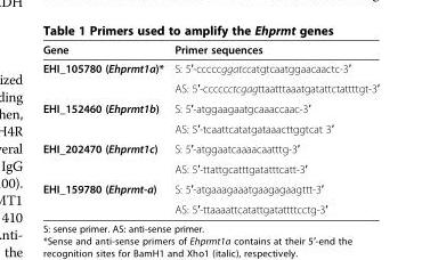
<table><thead><tr><td>Gene</td><td>Primer sequences</td></tr></thead><tbody><tr><td rowspan="2">EHI_105780 (Ehprmt1a)*</td><td>S: 5′-cccccggatccatgtcaatggaacaactc-3′</td></tr><tr><td>AS: 5′-cccccctcgagttaatttaaatgatattctattttgt-3′</td></tr><tr><td rowspan="2">EHI_152460 (Ehprmt1b)</td><td>S: 5′-atggaagaatgcaaaccaac-3′</td></tr><tr><td>AS: 5′-tcaattcatatgataaacttggtcat 3′</td></tr><tr><td rowspan="2">EHI_202470 (Ehprmt1c)</td><td>S: 5′-atggaatcaaaacaatttg-3′</td></tr><tr><td>AS: 5′-ttattgcatttgatatttcatt-3′</td></tr><tr><td rowspan="2">EHI_159780 (Ehprmt-a)</td><td>S: 5′-atgaaagaaatgaagagaagttt-3′</td></tr><tr><td>AS: 5′-ttaaaattcatattgatattttcctg-3′</td></tr></tbody></table>